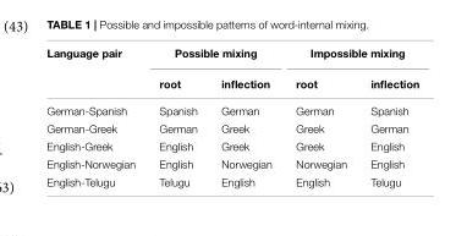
<table><thead><tr><td rowspan="2">Language pair</td><td colspan="2">Possible mixing</td><td colspan="2">Impossible mixing</td></tr><tr><td>root</td><td>inflection</td><td>root</td><td>inflection</td></tr></thead><tbody><tr><td>German-Spanish</td><td>Spanish</td><td>German</td><td>German</td><td>Spanish</td></tr><tr><td>German-Greek</td><td>German</td><td>Greek</td><td>Greek</td><td>German</td></tr><tr><td>English-Greek</td><td>English</td><td>Greek</td><td>Greek</td><td>English</td></tr><tr><td>English-Norwegian</td><td>English</td><td>Norwegian</td><td>Norwegian</td><td>English</td></tr><tr><td>English-Telugu</td><td>Telugu</td><td>English</td><td>English</td><td>Telugu</td></tr></tbody></table>